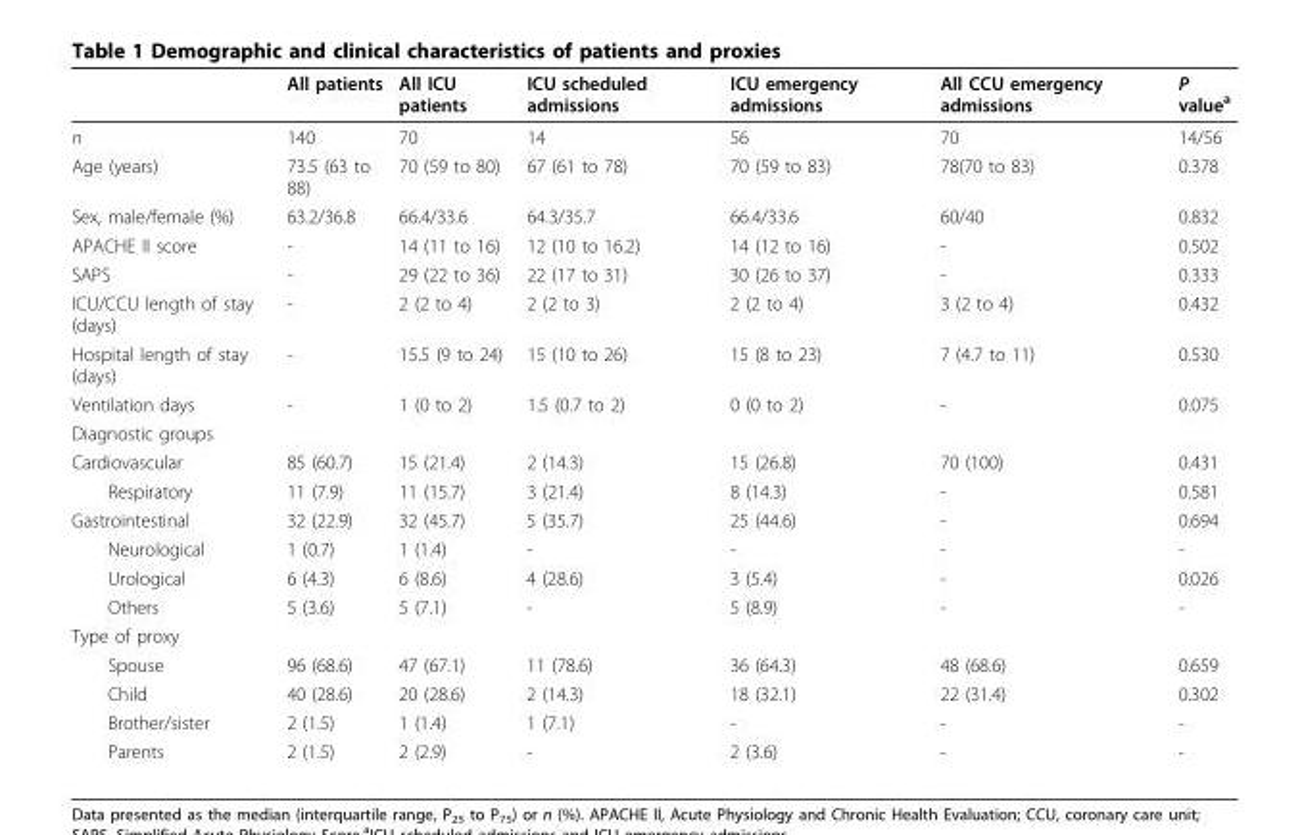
<table><thead><tr><td></td><td>All patients</td><td>All ICU patients</td><td>ICU scheduled admissions</td><td>ICU emergency admissions</td><td>All CCU emergency admissions</td><td>P value<sup>a</sup></td></tr></thead><tbody><tr><td>n</td><td>140</td><td>70</td><td>14</td><td>56</td><td>70</td><td>14/56</td></tr><tr><td>Age (years)</td><td>73.5 (63 to 88)</td><td>70 (59 to 80)</td><td>67 (61 to 78)</td><td>70 (59 to 83)</td><td>78(70 to 83)</td><td>0.378</td></tr><tr><td>Sex, male/female (%)</td><td>63.2/36.8</td><td>66.4/33.6</td><td>64.3/35.7</td><td>66.4/33.6</td><td>60/40</td><td>0.832</td></tr><tr><td>APACHE II score</td><td>-</td><td>14 (11 to 16)</td><td>12 (10 to 16.2)</td><td>14 (12 to 16)</td><td>-</td><td>0.502</td></tr><tr><td>SAPS</td><td>-</td><td>29 (22 to 36)</td><td>22 (17 to 31)</td><td>30 (26 to 37)</td><td>-</td><td>0.333</td></tr><tr><td>ICU/CCU length of stay (days)</td><td>-</td><td>2 (2 to 4)</td><td>2 (2 to 3)</td><td>2 (2 to 4)</td><td>3 (2 to 4)</td><td>0.432</td></tr><tr><td>Hospital length of stay (days)</td><td>-</td><td>15.5 (9 to 24)</td><td>15 (10 to 26)</td><td>15 (8 to 23)</td><td>7 (4.7 to 11)</td><td>0.530</td></tr><tr><td>Ventilation days</td><td>-</td><td>1 (0 to 2)</td><td>1.5 (0.7 to 2)</td><td>0 (0 to 2)</td><td>-</td><td>0.075</td></tr><tr><td colspan="7">Diagnostic groups</td></tr><tr><td>Cardiovascular</td><td>85 (60.7)</td><td>15 (21.4)</td><td>2 (14.3)</td><td>15 (26.8)</td><td>70 (100)</td><td>0.431</td></tr><tr><td>Respiratory</td><td>11 (7.9)</td><td>11 (15.7)</td><td>3 (21.4)</td><td>8 (14.3)</td><td>-</td><td>0.581</td></tr><tr><td>Gastrointestinal</td><td>32 (22.9)</td><td>32 (45.7)</td><td>5 (35.7)</td><td>25 (44.6)</td><td>-</td><td>0.694</td></tr><tr><td>Neurological</td><td>1 (0.7)</td><td>1 (1.4)</td><td>-</td><td>-</td><td>-</td><td>-</td></tr><tr><td>Urological</td><td>6 (4.3)</td><td>6 (8.6)</td><td>4 (28.6)</td><td>3 (5.4)</td><td>-</td><td>0.026</td></tr><tr><td>Others</td><td>5 (3.6)</td><td>5 (7.1)</td><td>-</td><td>5 (8.9)</td><td>-</td><td>-</td></tr><tr><td colspan="7">Type of proxy</td></tr><tr><td>Spouse</td><td>96 (68.6)</td><td>47 (67.1)</td><td>11 (78.6)</td><td>36 (64.3)</td><td>48 (68.6)</td><td>0.659</td></tr><tr><td>Child</td><td>40 (28.6)</td><td>20 (28.6)</td><td>2 (14.3)</td><td>18 (32.1)</td><td>22 (31.4)</td><td>0.302</td></tr><tr><td>Brother/sister</td><td>2 (1.5)</td><td>1 (1.4)</td><td>1 (7.1)</td><td>-</td><td>-</td><td>-</td></tr><tr><td>Parents</td><td>2 (1.5)</td><td>2 (2.9)</td><td>-</td><td>2 (3.6)</td><td>-</td><td>-</td></tr></tbody></table>